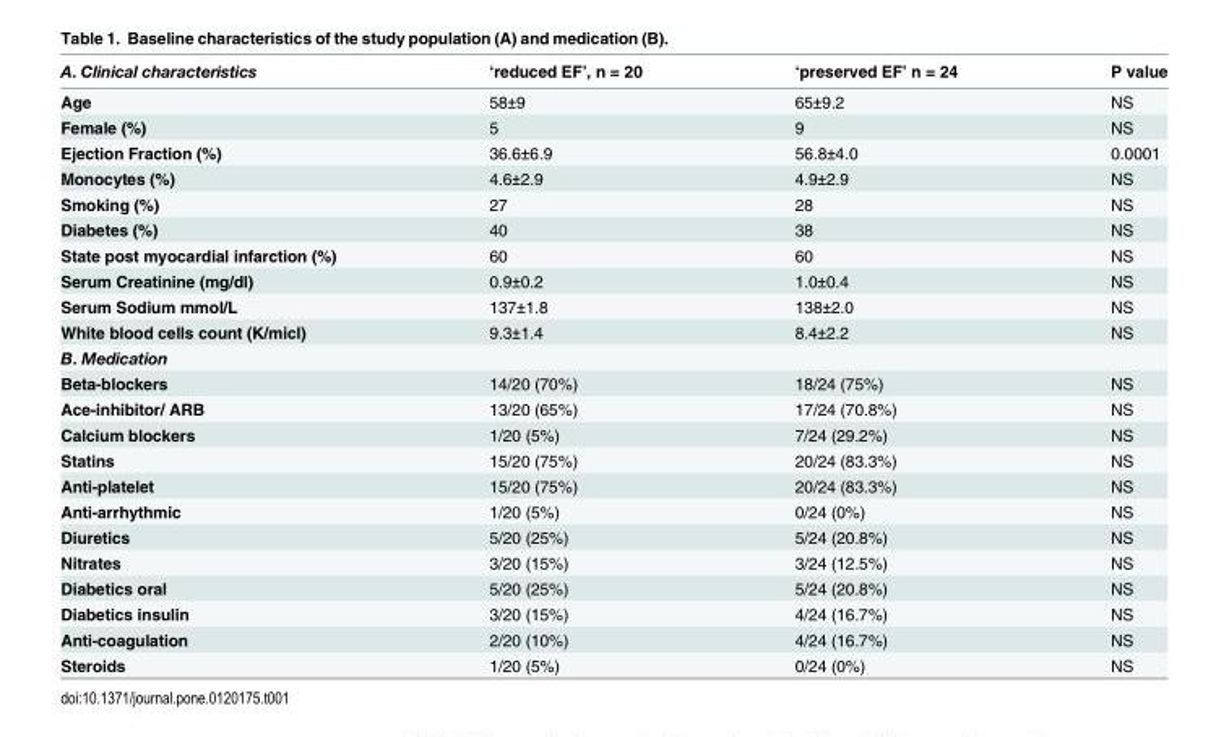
<table><thead><tr><td>A. Clinical characteristics</td><td>‘reduced EF’, n = 20</td><td>‘preserved EF’ n = 24</td><td>P value</td></tr></thead><tbody><tr><td>Age</td><td>58±9</td><td>65±9.2</td><td>NS</td></tr><tr><td>Female (%)</td><td>5</td><td>9</td><td>NS</td></tr><tr><td>Ejection Fraction (%)</td><td>36.6±6.9</td><td>56.8±4.0</td><td>0.0001</td></tr><tr><td>Monocytes (%)</td><td>4.6±2.9</td><td>4.9±2.9</td><td>NS</td></tr><tr><td>Smoking (%)</td><td>27</td><td>28</td><td>NS</td></tr><tr><td>Diabetes (%)</td><td>40</td><td>38</td><td>NS</td></tr><tr><td>State post myocardial infarction (%)</td><td>60</td><td>60</td><td>NS</td></tr><tr><td>Serum Creatinine (mg/dl)</td><td>0.9±0.2</td><td>1.0±0.4</td><td>NS</td></tr><tr><td>Serum Sodium mmol/L</td><td>137±1.8</td><td>138±2.0</td><td>NS</td></tr><tr><td>White blood cells count (K/micl)</td><td>9.3±1.4</td><td>8.4±2.2</td><td>NS</td></tr><tr><td colspan="4">B. Medication</td></tr><tr><td>Beta-blockers</td><td>14/20 (70%)</td><td>18/24 (75%)</td><td>NS</td></tr><tr><td>Ace-inhibitor/ ARB</td><td>13/20 (65%)</td><td>17/24 (70.8%)</td><td>NS</td></tr><tr><td>Calcium blockers</td><td>1/20 (5%)</td><td>7/24 (29.2%)</td><td>NS</td></tr><tr><td>Statins</td><td>15/20 (75%)</td><td>20/24 (83.3%)</td><td>NS</td></tr><tr><td>Anti-platelet</td><td>15/20 (75%)</td><td>20/24 (83.3%)</td><td>NS</td></tr><tr><td>Anti-arrhythmic</td><td>1/20 (5%)</td><td>0/24 (0%)</td><td>NS</td></tr><tr><td>Diuretics</td><td>5/20 (25%)</td><td>5/24 (20.8%)</td><td>NS</td></tr><tr><td>Nitrates</td><td>3/20 (15%)</td><td>3/24 (12.5%)</td><td>NS</td></tr><tr><td>Diabetics oral</td><td>5/20 (25%)</td><td>5/24 (20.8%)</td><td>NS</td></tr><tr><td>Diabetics insulin</td><td>3/20 (15%)</td><td>4/24 (16.7%)</td><td>NS</td></tr><tr><td>Anti-coagulation</td><td>2/20 (10%)</td><td>4/24 (16.7%)</td><td>NS</td></tr><tr><td>Steroids</td><td>1/20 (5%)</td><td>0/24 (0%)</td><td>NS</td></tr></tbody></table>